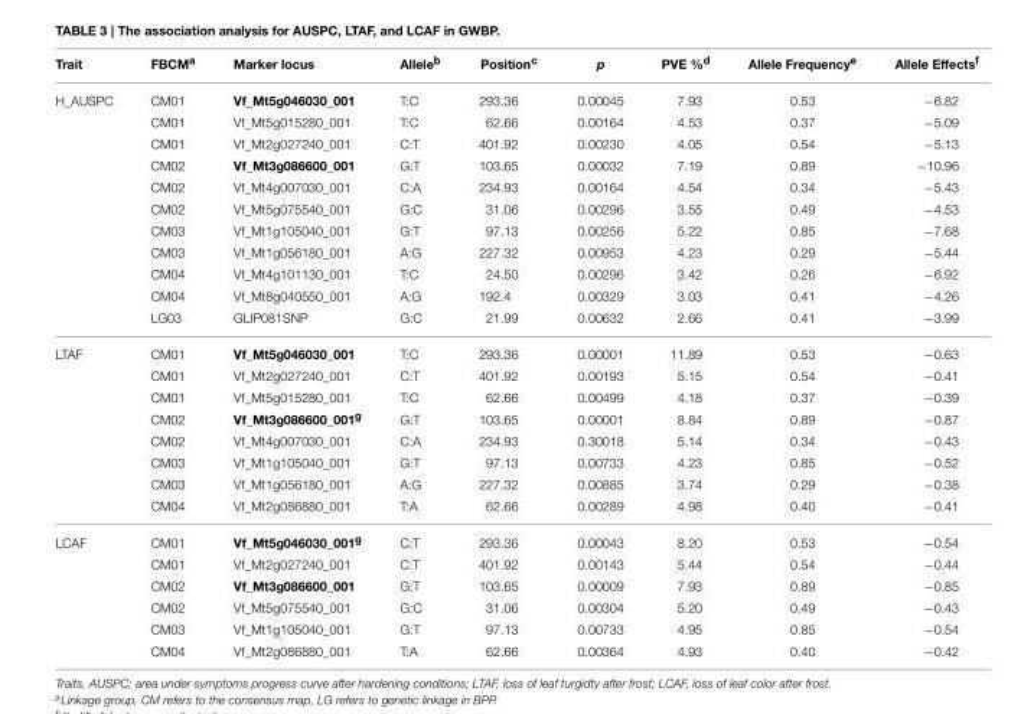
<table><thead><tr><td>Trait</td><td>FBCM<sup>a</sup></td><td>Marker locus</td><td>Allele<sup>b</sup></td><td>Position<sup>c</sup></td><td>p</td><td>PVE %<sup>d</sup></td><td>Allele Frequency<sup>e</sup></td><td>Allele Effects<sup>f</sup></td></tr></thead><tbody><tr><td rowspan="11">H_AUSPC</td><td>CM01</td><td>Vf_Mt5g046030_001</td><td>T:C</td><td>293.36</td><td>0.00045</td><td>7.93</td><td>0.53</td><td>−6.82</td></tr><tr><td>CM01</td><td>Vf_Mt5g015280_001</td><td>T:C</td><td>62.66</td><td>0.00164</td><td>4.53</td><td>0.37</td><td>−5.09</td></tr><tr><td>CM01</td><td>Vf_Mt2g027240_001</td><td>C:T</td><td>401.92</td><td>0.00230</td><td>4.05</td><td>0.54</td><td>−5.13</td></tr><tr><td>CM02</td><td>Vf_Mt3g086600_001</td><td>G:T</td><td>103.65</td><td>0.00032</td><td>7.19</td><td>0.89</td><td>−10.96</td></tr><tr><td>CM02</td><td>Vf_Mt4g007030_001</td><td>C:A</td><td>234.93</td><td>0.00164</td><td>4.54</td><td>0.34</td><td>−5.43</td></tr><tr><td>CM02</td><td>Vf_Mt5g075540_001</td><td>G:C</td><td>31.06</td><td>0.00296</td><td>3.55</td><td>0.49</td><td>−4.53</td></tr><tr><td>CM03</td><td>Vf_Mt1g105040_001</td><td>G:T</td><td>97.13</td><td>0.00256</td><td>5.22</td><td>0.85</td><td>−7.68</td></tr><tr><td>CM03</td><td>Vf_Mt1g056180_001</td><td>A:G</td><td>227.32</td><td>0.00953</td><td>4.23</td><td>0.29</td><td>−5.44</td></tr><tr><td>CM04</td><td>Vf_Mt4g101130_001</td><td>T:C</td><td>24.50</td><td>0.00296</td><td>3.42</td><td>0.26</td><td>−6.92</td></tr><tr><td>CM04</td><td>Vf_Mt8g040550_001</td><td>A:G</td><td>192.4</td><td>0.00329</td><td>3.03</td><td>0.41</td><td>−4.26</td></tr><tr><td>LG03</td><td>GLIP081SNP</td><td>G:C</td><td>21.99</td><td>0.00632</td><td>2.66</td><td>0.41</td><td>−3.99</td></tr><tr><td rowspan="8">LTAF</td><td>CM01</td><td>Vf_Mt5g046030_001</td><td>T:C</td><td>293.36</td><td>0.00001</td><td>11.89</td><td>0.53</td><td>−0.63</td></tr><tr><td>CM01</td><td>Vf_Mt2g027240_001</td><td>C:T</td><td>401.92</td><td>0.00193</td><td>5.15</td><td>0.54</td><td>−0.41</td></tr><tr><td>CM01</td><td>Vf_Mt5g015280_001</td><td>T:C</td><td>62.66</td><td>0.00499</td><td>4.18</td><td>0.37</td><td>−0.39</td></tr><tr><td>CM02</td><td>Vf_Mt3g086600_001<sup>g</sup></td><td>G:T</td><td>103.65</td><td>0.00001</td><td>8.84</td><td>0.89</td><td>−0.87</td></tr><tr><td>CM02</td><td>Vf_Mt4g007030_001</td><td>C:A</td><td>234.93</td><td>0.30018</td><td>5.14</td><td>0.34</td><td>−0.43</td></tr><tr><td>CM03</td><td>Vf_Mt1g105040_001</td><td>G:T</td><td>97.13</td><td>0.00733</td><td>4.23</td><td>0.85</td><td>−0.52</td></tr><tr><td>CM03</td><td>Vf_Mt1g056180_001</td><td>A:G</td><td>227.32</td><td>0.00885</td><td>3.74</td><td>0.29</td><td>−0.38</td></tr><tr><td>CM04</td><td>Vf_Mt2g086880_001</td><td>T:A</td><td>62.66</td><td>0.00289</td><td>4.98</td><td>0.40</td><td>−0.41</td></tr><tr><td rowspan="6">LCAF</td><td>CM01</td><td>Vf_Mt5g046030_001<sup>g</sup></td><td>C:T</td><td>293.36</td><td>0.00043</td><td>8.20</td><td>0.53</td><td>−0.54</td></tr><tr><td>CM01</td><td>Vf_Mt2g027240_001</td><td>C:T</td><td>401.92</td><td>0.00143</td><td>5.44</td><td>0.54</td><td>−0.44</td></tr><tr><td>CM02</td><td>Vf_Mt3g086600_001</td><td>G:T</td><td>103.65</td><td>0.00009</td><td>7.93</td><td>0.89</td><td>−0.85</td></tr><tr><td>CM02</td><td>Vf_Mt5g075540_001</td><td>G:C</td><td>31.06</td><td>0.00304</td><td>5.20</td><td>0.49</td><td>−0.43</td></tr><tr><td>CM03</td><td>Vf_Mt1g105040_001</td><td>G:T</td><td>97.13</td><td>0.00733</td><td>4.95</td><td>0.85</td><td>−0.54</td></tr><tr><td>CM04</td><td>Vf_Mt2g086880_001</td><td>T:A</td><td>62.66</td><td>0.00364</td><td>4.93</td><td>0.40</td><td>−0.42</td></tr></tbody></table>